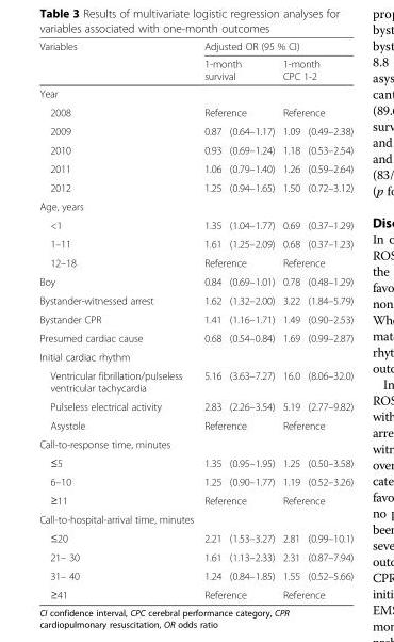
<table><thead><tr><td rowspan="2">Variables</td><td colspan="4">Adjusted OR (95 % CI)</td></tr><tr><td colspan="2">1-month survival</td><td colspan="2">1-month CPC 1-2</td></tr><tr><td colspan="5">Year</td></tr><tr><td rowspan="2">2008 2009</td><td colspan="2">Reference</td><td colspan="2">Reference</td></tr><tr><td>0.87</td><td>(0.64–1.17)</td><td>1.09</td><td>(0.49–2.38)</td></tr></thead><tbody><tr><td>2010</td><td>0.93</td><td>(0.69–1.24)</td><td>1.18</td><td>(0.53–2.54)</td></tr><tr><td>2011</td><td>1.06</td><td>(0.79–1.40)</td><td>1.26</td><td>(0.59–2.64)</td></tr><tr><td>2012</td><td>1.25</td><td>(0.94–1.65)</td><td>1.50</td><td>(0.72–3.12)</td></tr><tr><td colspan="5">Age, years</td></tr><tr><td>&lt;1</td><td>1.35</td><td>(1.04–1.77)</td><td>0.69</td><td>(0.37–1.29)</td></tr><tr><td>1–11</td><td>1.61</td><td>(1.25–2.09)</td><td>0.68</td><td>(0.37–1.23)</td></tr><tr><td>12–18</td><td colspan="2">Reference</td><td colspan="2">Reference</td></tr><tr><td>Boy</td><td>0.84</td><td>(0.69–1.01)</td><td>0.78</td><td>(0.48–1.29)</td></tr><tr><td>Bystander-witnessed arrest</td><td>1.62</td><td>(1.32–2.00)</td><td>3.22</td><td>(1.84–5.79)</td></tr><tr><td>Bystander CPR</td><td>1.41</td><td>(1.16–1.71)</td><td>1.49</td><td>(0.90–2.53)</td></tr><tr><td>Presumed cardiac cause</td><td>0.68</td><td>(0.54–0.84)</td><td>1.69</td><td>(0.99–2.87)</td></tr><tr><td colspan="5">Initial cardiac rhythm</td></tr><tr><td>Ventricular fibrillation/pulseless ventricular tachycardia</td><td>5.16</td><td>(3.63–7.27)</td><td>16.0</td><td>(8.06–32.0)</td></tr><tr><td>Pulseless electrical activity</td><td>2.83</td><td>(2.26–3.54)</td><td>5.19</td><td>(2.77–9.82)</td></tr><tr><td>Asystole</td><td colspan="2">Reference</td><td colspan="2">Reference</td></tr><tr><td colspan="5">Call-to-response time, minutes</td></tr><tr><td>≤5</td><td>1.35</td><td>(0.95–1.95)</td><td>1.25</td><td>(0.50–3.58)</td></tr><tr><td>6–10</td><td>1.25</td><td>(0.90–1.77)</td><td>1.19</td><td>(0.52–3.26)</td></tr><tr><td>≥11</td><td colspan="2">Reference</td><td colspan="2">Reference</td></tr><tr><td colspan="5">Call-to-hospital-arrival time, minutes</td></tr><tr><td>≤20</td><td>2.21</td><td>(1.53–3.27)</td><td>2.81</td><td>(0.99–10.1)</td></tr><tr><td>21– 30</td><td>1.61</td><td>(1.13–2.33)</td><td>2.31</td><td>(0.87–7.94)</td></tr><tr><td>31– 40</td><td>1.24</td><td>(0.84–1.85)</td><td>1.55</td><td>(0.52–5.66)</td></tr><tr><td>≥41</td><td colspan="2">Reference</td><td colspan="2">Reference</td></tr></tbody></table>